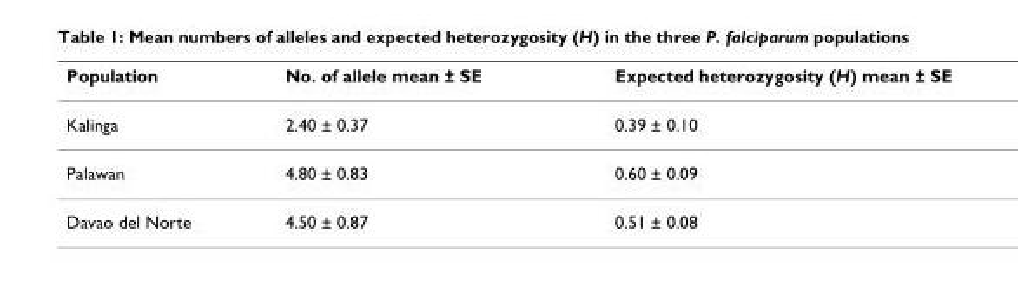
<table><thead><tr><td>Population</td><td>No. of allele mean ± SE</td><td>Expected heterozygosity (H) mean ± SE</td></tr></thead><tbody><tr><td>Kalinga</td><td>2.40 ± 0.37</td><td>0.39 ± 0.10</td></tr><tr><td>Palawan</td><td>4.80 ± 0.83</td><td>0.60 ± 0.09</td></tr><tr><td>Davao del Norte</td><td>4.50 ± 0.87</td><td>0.51 ± 0.08</td></tr></tbody></table>